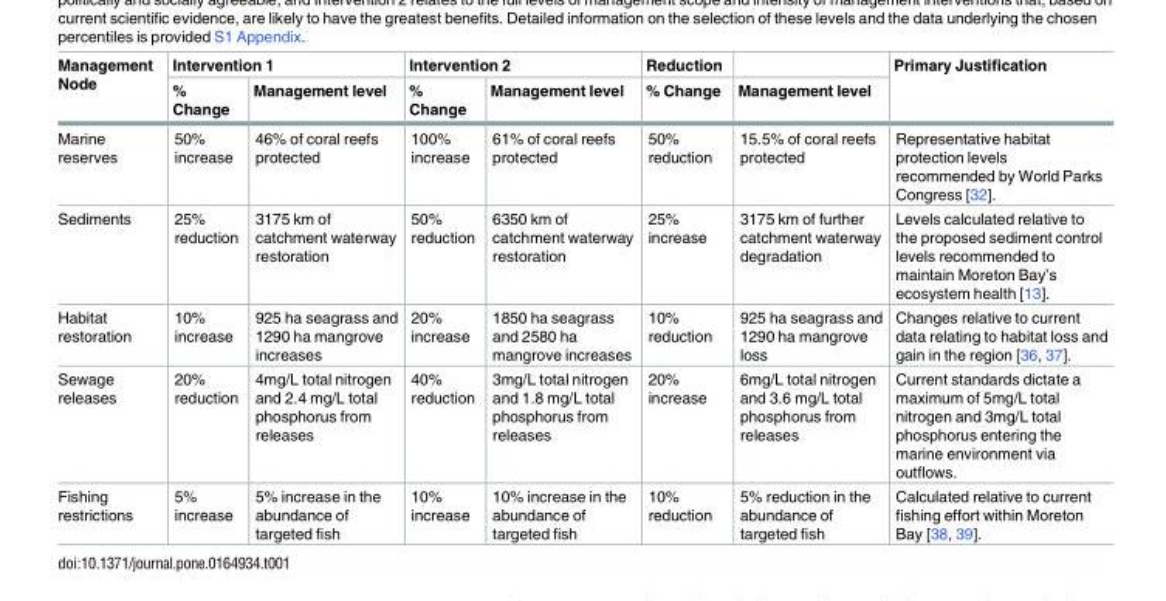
<table><thead><tr><td rowspan="2">Management Node</td><td colspan="2">Intervention 1</td><td colspan="2">Intervention 2</td><td rowspan="2">Reduction % Change</td><td rowspan="2">Management level</td><td rowspan="2">Primary Justification</td></tr><tr><td>% Change</td><td>Management level</td><td>% Change</td><td>Management level</td></tr></thead><tbody><tr><td>Marine reserves</td><td>50% increase</td><td>46% of coral reefs protected</td><td>100% increase</td><td>61% of coral reefs protected</td><td>50% reduction</td><td>15.5% of coral reefs protected</td><td>Representative habitat protection levels recommended by World Parks Congress [32].</td></tr><tr><td>Sediments</td><td>25% reduction</td><td>3175 km of catchment waterway restoration</td><td>50% reduction</td><td>6350 km of catchment waterway restoration</td><td>25% increase</td><td>3175 km of further catchment waterway degradation</td><td>Levels calculated relative to the proposed sediment control levels recommended to maintain Moreton Bay’s ecosystem health [13].</td></tr><tr><td>Habitat restoration</td><td>10% increase</td><td>925 ha seagrass and 1290 ha mangrove increases</td><td>20% increase</td><td>1850 ha seagrass and 2580 ha mangrove increases</td><td>10% reduction</td><td>925 ha seagrass and 1290 ha mangrove loss</td><td>Changes relative to current data relating to habitat loss and gain in the region [36, 37].</td></tr><tr><td>Sewage releases</td><td>20% reduction</td><td>4mg/L total nitrogen and 2.4 mg/L total phosphorus from releases</td><td>40% reduction</td><td>3mg/L total nitrogen and 1.8 mg/L total phosphorus from releases</td><td>20% increase</td><td>6mg/L total nitrogen and 3.6 mg/L total phosphorus from releases</td><td>Current standards dictate a maximum of 5mg/L total nitrogen and 3mg/L total phosphorus entering the marine environment via outflows.</td></tr><tr><td>Fishing restrictions</td><td>5% increase</td><td>5% increase in the abundance of targeted fish</td><td>10% increase</td><td>10% increase in the abundance of targeted fish</td><td>10% reduction</td><td>5% reduction in the abundance of targeted fish</td><td>Calculated relative to current fishing effort within Moreton Bay [38, 39].</td></tr></tbody></table>